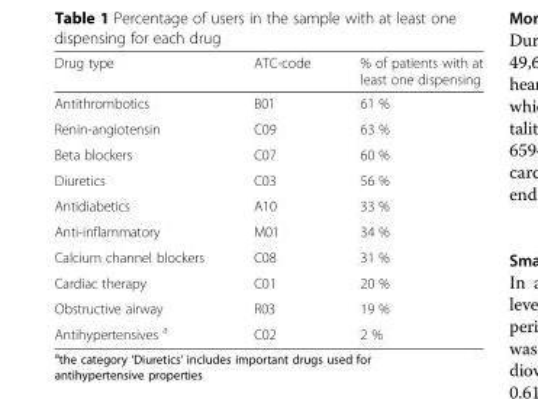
<table><thead><tr><td>Drug type</td><td>ATC-code</td><td>% of patients with at least one dispensing</td></tr></thead><tbody><tr><td>Antithrombotics</td><td>B01</td><td>61 %</td></tr><tr><td>Renin-angiotensin</td><td>C09</td><td>63 %</td></tr><tr><td>Beta blockers</td><td>C07</td><td>60 %</td></tr><tr><td>Diuretics</td><td>C03</td><td>56 %</td></tr><tr><td>Antidiabetics</td><td>A10</td><td>33 %</td></tr><tr><td>Anti-inflammatory</td><td>M01</td><td>34 %</td></tr><tr><td>Calcium channel blockers</td><td>C08</td><td>31 %</td></tr><tr><td>Cardiac therapy</td><td>C01</td><td>20 %</td></tr><tr><td>Obstructive airway</td><td>R03</td><td>19 %</td></tr><tr><td>Antihypertensives <sup>a</sup></td><td>C02</td><td>2 %</td></tr></tbody></table>